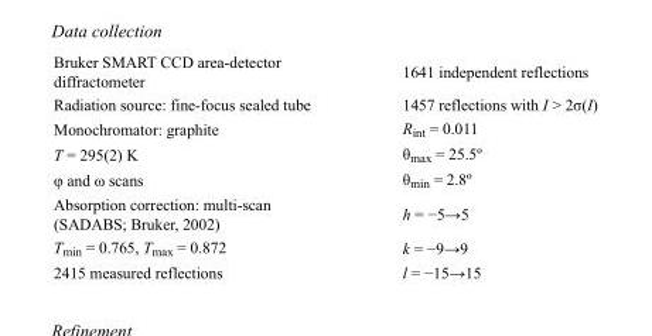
<table><tbody><tr><td>Bruker SMART CCD area-detector diffractometer</td><td>1641 independent reflections</td></tr><tr><td>Radiation source: fine-focus sealed tube</td><td>1457 reflections with I &gt; 2σ(I)</td></tr><tr><td>Monochromator: graphite</td><td>R<sub>int</sub> = 0.011</td></tr><tr><td>T = 295(2) K</td><td>θ<sub>max</sub> = 25.5º</td></tr><tr><td>φ and ω scans</td><td>θ<sub>min</sub> = 2.8º</td></tr><tr><td>Absorption correction: multi-scan (SADABS; Bruker, 2002)</td><td>h = −5→5</td></tr><tr><td>T<sub>min</sub> = 0.765, T<sub>max</sub> = 0.872</td><td>k = −9→9</td></tr><tr><td>2415 measured reflections</td><td>l = −15→15</td></tr></tbody></table>